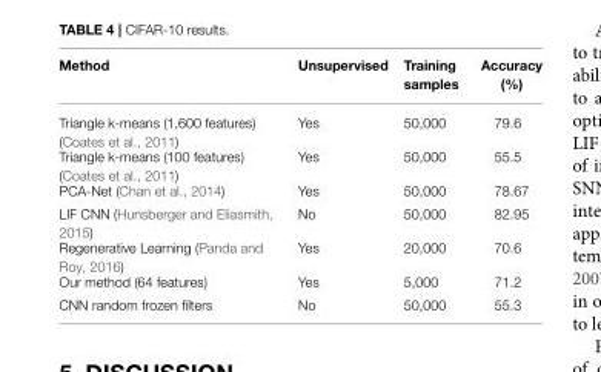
<table><thead><tr><td>Method</td><td>Unsupervised</td><td>Training samples</td><td>Accuracy (%)</td></tr></thead><tbody><tr><td>Triangle k-means (1,600 features) (Coates et al., 2011)</td><td>Yes</td><td>50,000</td><td>79.6</td></tr><tr><td>Triangle k-means (100 features) (Coates et al., 2011)</td><td>Yes</td><td>50,000</td><td>55.5</td></tr><tr><td>PCA-Net (Chan et al., 2014)</td><td>Yes</td><td>50,000</td><td>78.67</td></tr><tr><td>LIF CNN (Hunsberger and Eliasmith, 2015)</td><td>No</td><td>50,000</td><td>82.95</td></tr><tr><td>Regenerative Learning (Panda and Roy, 2016)</td><td>Yes</td><td>20,000</td><td>70.6</td></tr><tr><td>Our method (64 features)</td><td>Yes</td><td>5,000</td><td>71.2</td></tr><tr><td>CNN random frozen filters</td><td>No</td><td>50,000</td><td>55.3</td></tr></tbody></table>